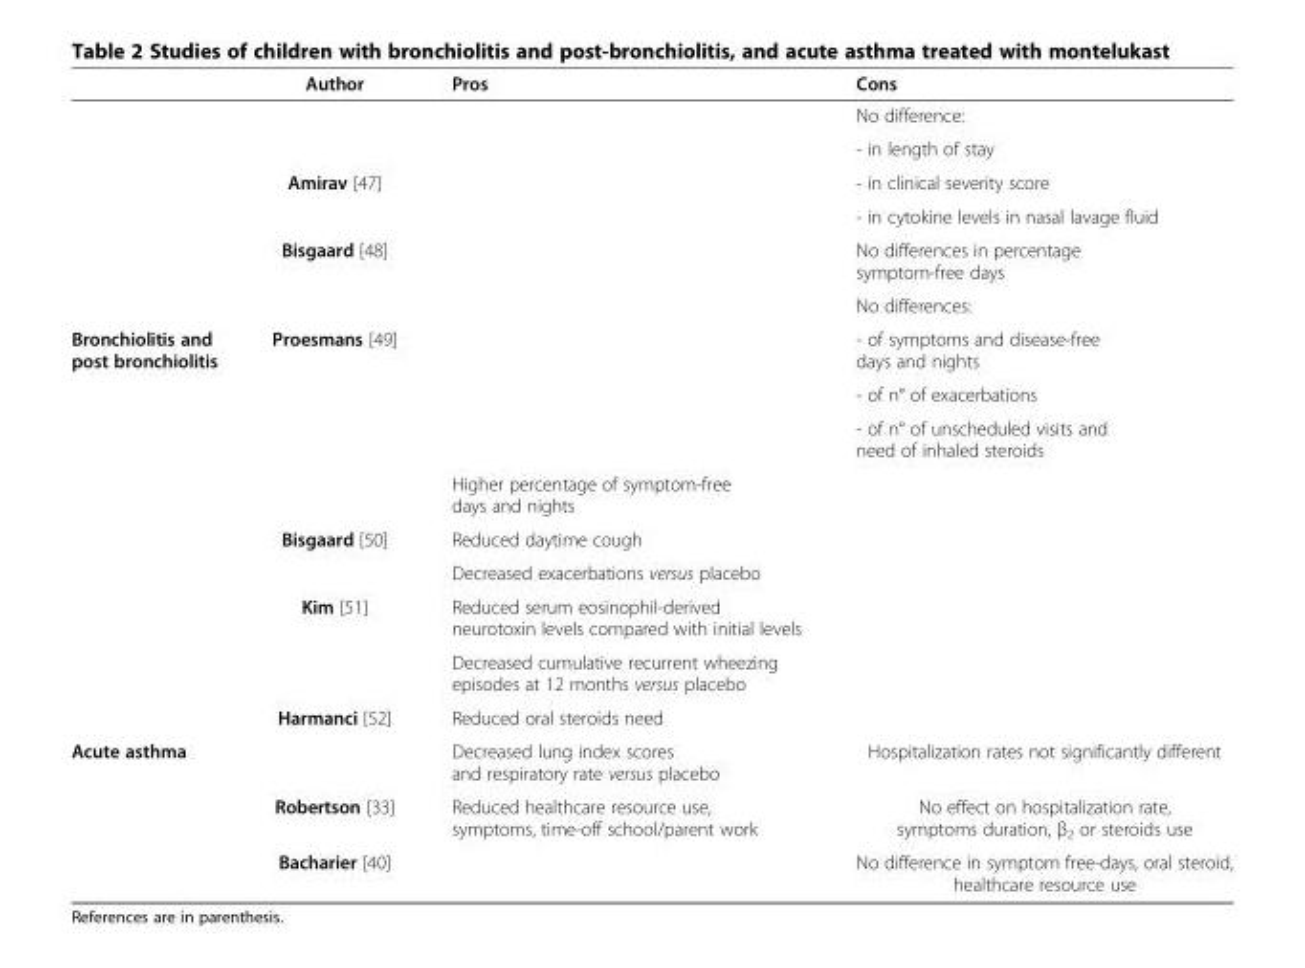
<table><thead><tr><td></td><td>Author</td><td>Pros</td><td>Cons</td></tr></thead><tbody><tr><td></td><td></td><td></td><td>No difference:</td></tr><tr><td></td><td></td><td></td><td>- in length of stay</td></tr><tr><td></td><td>Amirav [47]</td><td></td><td>- in clinical severity score</td></tr><tr><td></td><td></td><td></td><td>- in cytokine levels in nasal lavage fluid</td></tr><tr><td></td><td>Bisgaard [48]</td><td></td><td>No differences in percentage symptom-free days</td></tr><tr><td></td><td></td><td></td><td>No differences:</td></tr><tr><td rowspan="9">Bronchiolitis and post bronchiolitis</td><td>Proesmans [49]</td><td></td><td>- of symptoms and disease-free days and nights</td></tr><tr><td></td><td></td><td>- of n° of exacerbations</td></tr><tr><td></td><td></td><td>- of n° of unscheduled visits and need of inhaled steroids</td></tr><tr><td></td><td>Higher percentage of symptom-free days and nights</td><td></td></tr><tr><td>Bisgaard [50]</td><td>Reduced daytime cough</td><td></td></tr><tr><td></td><td>Decreased exacerbations versus placebo</td><td></td></tr><tr><td>Kim [51]</td><td>Reduced serum eosinophil-derived neurotoxin levels compared with initial levels</td><td></td></tr><tr><td></td><td>Decreased cumulative recurrent wheezing episodes at 12 months versus placebo</td><td></td></tr><tr><td>Harmanci [52]</td><td>Reduced oral steroids need</td><td></td></tr><tr><td rowspan="3">Acute asthma</td><td></td><td>Decreased lung index scores and respiratory rate versus placebo</td><td>Hospitalization rates not significantly different</td></tr><tr><td>Robertson [33]</td><td>Reduced healthcare resource use, symptoms, time-off school/parent work</td><td>No effect on hospitalization rate, symptoms duration, β<sub>2</sub> or steroids use</td></tr><tr><td>Bacharier [40]</td><td></td><td>No difference in symptom free-days, oral steroid, healthcare resource use</td></tr></tbody></table>